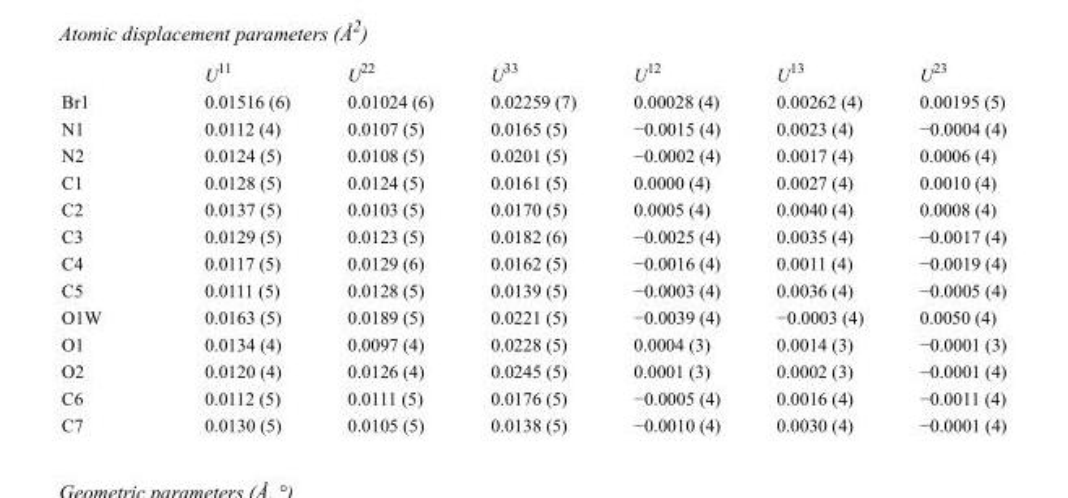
<table><thead><tr><td></td><td>U<sup>11</sup></td><td>U<sup>22</sup></td><td>U<sup>33</sup></td><td>U<sup>12</sup></td><td>U<sup>13</sup></td><td>U<sup>23</sup></td></tr></thead><tbody><tr><td>Br1</td><td>0.01516 (6)</td><td>0.01024 (6)</td><td>0.02259 (7)</td><td>0.00028 (4)</td><td>0.00262 (4)</td><td>0.00195 (5)</td></tr><tr><td>N1</td><td>0.0112 (4)</td><td>0.0107 (5)</td><td>0.0165 (5)</td><td>−0.0015 (4)</td><td>0.0023 (4)</td><td>−0.0004 (4)</td></tr><tr><td>N2</td><td>0.0124 (5)</td><td>0.0108 (5)</td><td>0.0201 (5)</td><td>−0.0002 (4)</td><td>0.0017 (4)</td><td>0.0006 (4)</td></tr><tr><td>C1</td><td>0.0128 (5)</td><td>0.0124 (5)</td><td>0.0161 (5)</td><td>0.0000 (4)</td><td>0.0027 (4)</td><td>0.0010 (4)</td></tr><tr><td>C2</td><td>0.0137 (5)</td><td>0.0103 (5)</td><td>0.0170 (5)</td><td>0.0005 (4)</td><td>0.0040 (4)</td><td>0.0008 (4)</td></tr><tr><td>C3</td><td>0.0129 (5)</td><td>0.0123 (5)</td><td>0.0182 (6)</td><td>−0.0025 (4)</td><td>0.0035 (4)</td><td>−0.0017 (4)</td></tr><tr><td>C4</td><td>0.0117 (5)</td><td>0.0129 (6)</td><td>0.0162 (5)</td><td>−0.0016 (4)</td><td>0.0011 (4)</td><td>−0.0019 (4)</td></tr><tr><td>C5</td><td>0.0111 (5)</td><td>0.0128 (5)</td><td>0.0139 (5)</td><td>−0.0003 (4)</td><td>0.0036 (4)</td><td>−0.0005 (4)</td></tr><tr><td>O1W</td><td>0.0163 (5)</td><td>0.0189 (5)</td><td>0.0221 (5)</td><td>−0.0039 (4)</td><td>−0.0003 (4)</td><td>0.0050 (4)</td></tr><tr><td>O1</td><td>0.0134 (4)</td><td>0.0097 (4)</td><td>0.0228 (5)</td><td>0.0004 (3)</td><td>0.0014 (3)</td><td>−0.0001 (3)</td></tr><tr><td>O2</td><td>0.0120 (4)</td><td>0.0126 (4)</td><td>0.0245 (5)</td><td>0.0001 (3)</td><td>0.0002 (3)</td><td>−0.0001 (4)</td></tr><tr><td>C6</td><td>0.0112 (5)</td><td>0.0111 (5)</td><td>0.0176 (5)</td><td>−0.0005 (4)</td><td>0.0016 (4)</td><td>−0.0011 (4)</td></tr><tr><td>C7</td><td>0.0130 (5)</td><td>0.0105 (5)</td><td>0.0138 (5)</td><td>−0.0010 (4)</td><td>0.0030 (4)</td><td>−0.0001 (4)</td></tr></tbody></table>